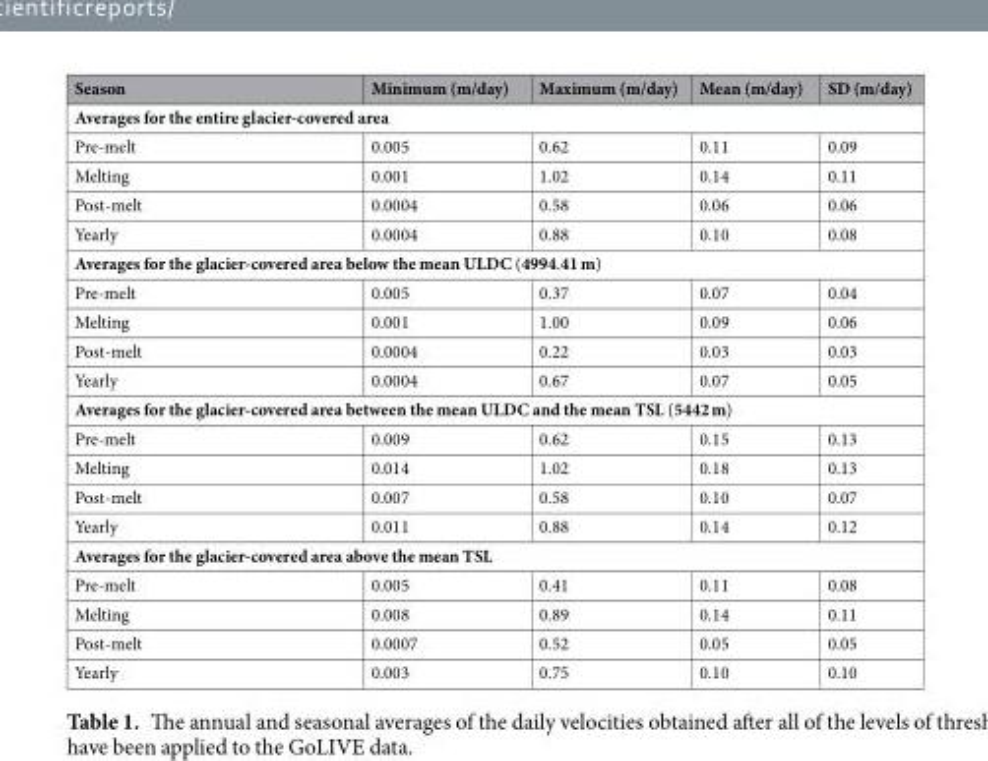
<table><thead><tr><td>Season</td><td>Minimum (m/day)</td><td>Maximum (m/day)</td><td>Mean (m/day)</td><td>SD (m/day)</td></tr></thead><tbody><tr><td colspan="5">Averages for the entire glacier-covered area</td></tr><tr><td>Pre-melt</td><td>0.005</td><td>0.62</td><td>0.11</td><td>0.09</td></tr><tr><td>Melting</td><td>0.001</td><td>1.02</td><td>0.14</td><td>0.11</td></tr><tr><td>Post-melt</td><td>0.0004</td><td>0.58</td><td>0.06</td><td>0.06</td></tr><tr><td>Yearly</td><td>0.0004</td><td>0.88</td><td>0.10</td><td>0.08</td></tr><tr><td colspan="5">Averages for the glacier-covered area below the mean ULDC (4994.41 m)</td></tr><tr><td>Pre-melt</td><td>0.005</td><td>0.37</td><td>0.07</td><td>0.04</td></tr><tr><td>Melting</td><td>0.001</td><td>1.00</td><td>0.09</td><td>0.06</td></tr><tr><td>Post-melt</td><td>0.0004</td><td>0.22</td><td>0.03</td><td>0.03</td></tr><tr><td>Yearly</td><td>0.0004</td><td>0.67</td><td>0.07</td><td>0.05</td></tr><tr><td colspan="5">Averages for the glacier-covered area between the mean ULDC and the mean TSL (5442 m)</td></tr><tr><td>Pre-melt</td><td>0.009</td><td>0.62</td><td>0.15</td><td>0.13</td></tr><tr><td>Melting</td><td>0.014</td><td>1.02</td><td>0.18</td><td>0.13</td></tr><tr><td>Post-melt</td><td>0.007</td><td>0.58</td><td>0.10</td><td>0.07</td></tr><tr><td>Yearly</td><td>0.011</td><td>0.88</td><td>0.14</td><td>0.12</td></tr><tr><td colspan="5">Averages for the glacier-covered area above the mean TSL</td></tr><tr><td>Pre-melt</td><td>0.005</td><td>0.41</td><td>0.11</td><td>0.08</td></tr><tr><td>Melting</td><td>0.008</td><td>0.89</td><td>0.14</td><td>0.11</td></tr><tr><td>Post-melt</td><td>0.0007</td><td>0.52</td><td>0.05</td><td>0.05</td></tr><tr><td>Yearly</td><td>0.003</td><td>0.75</td><td>0.10</td><td>0.10</td></tr></tbody></table>